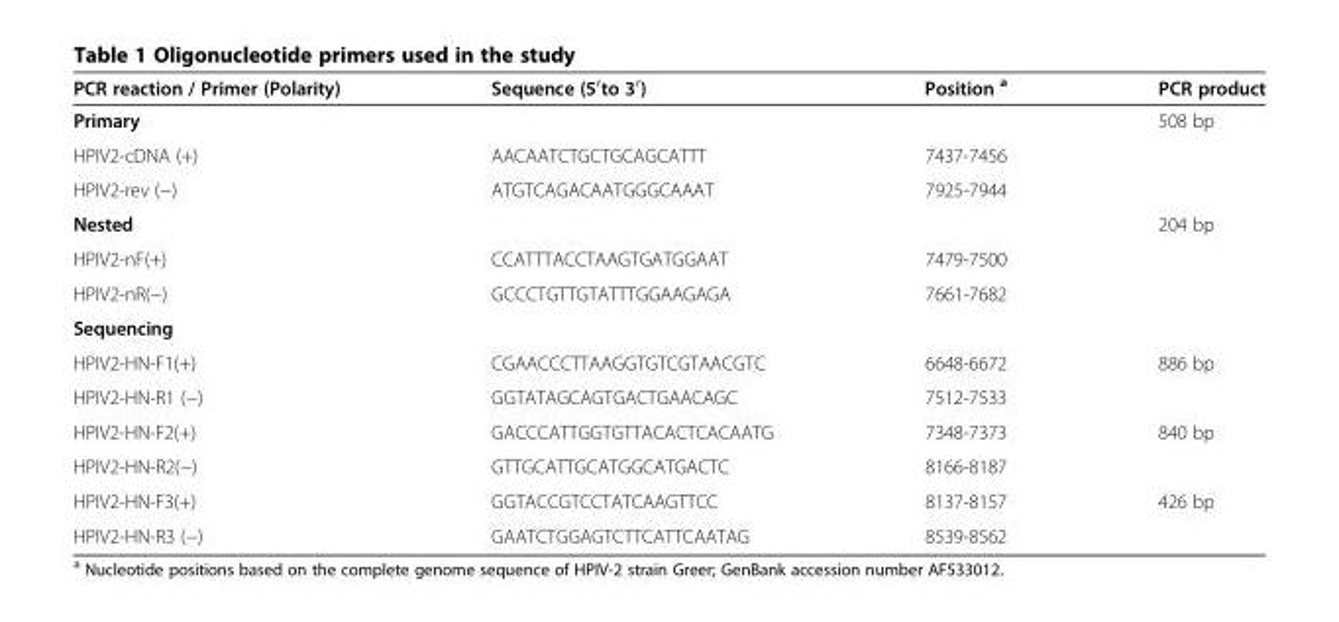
<table><thead><tr><td>PCR reaction / Primer (Polarity)</td><td>Sequence (5′to 3′)</td><td>Position <sup>a</sup></td><td>PCR product</td></tr></thead><tbody><tr><td colspan="3">Primary</td><td rowspan="3">508 bp</td></tr><tr><td>HPIV2-cDNA (+)</td><td>AACAATCTGCTGCAGCATTT</td><td>7437-7456</td></tr><tr><td>HPIV2-rev (−)</td><td>ATGTCAGACAATGGGCAAAT</td><td>7925-7944</td></tr><tr><td colspan="3">Nested</td><td rowspan="3">204 bp</td></tr><tr><td>HPIV2-nF(+)</td><td>CCATTTACCTAAGTGATGGAAT</td><td>7479-7500</td></tr><tr><td>HPIV2-nR(−)</td><td>GCCCTGTTGTATTTGGAAGAGA</td><td>7661-7682</td></tr><tr><td colspan="4">Sequencing</td></tr><tr><td>HPIV2-HN-F1(+)</td><td>CGAACCCTTAAGGTGTCGTAACGTC</td><td>6648-6672</td><td>886 bp</td></tr><tr><td>HPIV2-HN-R1 (−)</td><td>GGTATAGCAGTGACTGAACAGC</td><td>7512-7533</td><td></td></tr><tr><td>HPIV2-HN-F2(+)</td><td>GACCCATTGGTGTTACACTCACAATG</td><td>7348-7373</td><td>840 bp</td></tr><tr><td>HPIV2-HN-R2(−)</td><td>GTTGCATTGCATGGCATGACTC</td><td>8166-8187</td><td></td></tr><tr><td>HPIV2-HN-F3(+)</td><td>GGTACCGTCCTATCAAGTTCC</td><td>8137-8157</td><td>426 bp</td></tr><tr><td>HPIV2-HN-R3 (−)</td><td>GAATCTGGAGTCTTCATTCAATAG</td><td>8539-8562</td><td></td></tr></tbody></table>